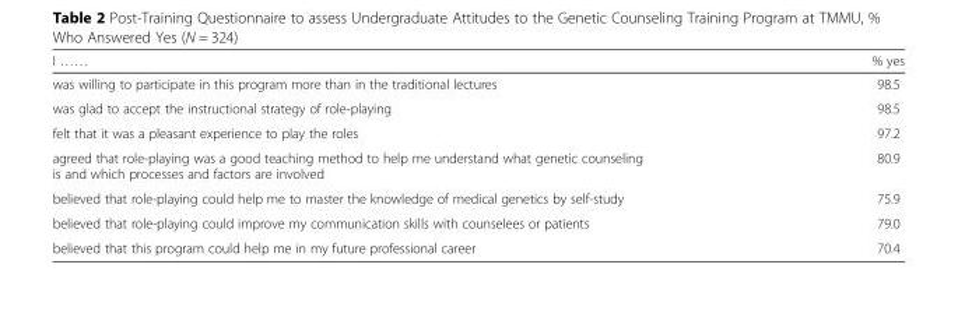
<table><thead><tr><td>I ……</td><td>% yes</td></tr></thead><tbody><tr><td>was willing to participate in this program more than in the traditional lectures</td><td>98.5</td></tr><tr><td>was glad to accept the instructional strategy of role-playing</td><td>98.5</td></tr><tr><td>felt that it was a pleasant experience to play the roles</td><td>97.2</td></tr><tr><td>agreed that role-playing was a good teaching method to help me understand what genetic counseling is and which processes and factors are involved</td><td>80.9</td></tr><tr><td>believed that role-playing could help me to master the knowledge of medical genetics by self-study</td><td>75.9</td></tr><tr><td>believed that role-playing could improve my communication skills with counselees or patients</td><td>79.0</td></tr><tr><td>believed that this program could help me in my future professional career</td><td>70.4</td></tr></tbody></table>